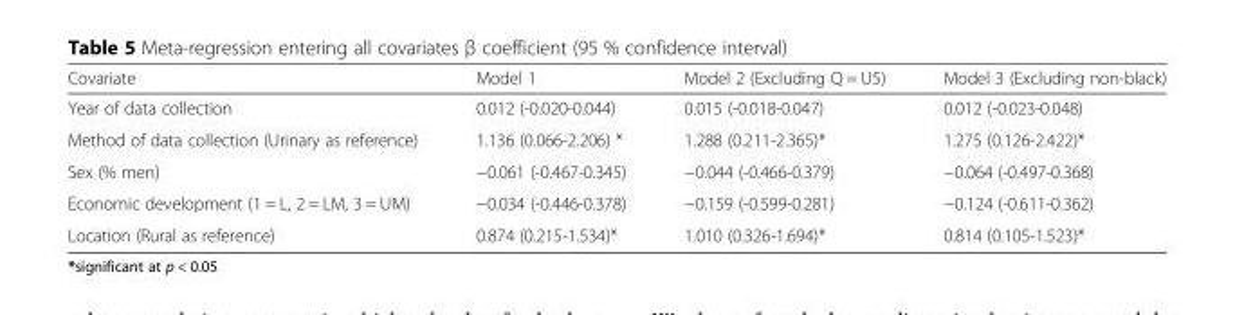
<table><thead><tr><td>Covariate</td><td>Model 1</td><td>Model 2 (Excluding Q = U5)</td><td>Model 3 (Excluding non-black)</td></tr></thead><tbody><tr><td>Year of data collection</td><td>0.012 (-0.020-0.044)</td><td>0.015 (-0.018-0.047)</td><td>0.012 (-0.023-0.048)</td></tr><tr><td>Method of data collection (Urinary as reference)</td><td>1.136 (0.066-2.206) *</td><td>1.288 (0.211-2.365)*</td><td>1.275 (0.126-2.422)*</td></tr><tr><td>Sex (% men)</td><td>−0.061 (-0.467-0.345)</td><td>−0.044 (-0.466-0.379)</td><td>−0.064 (-0.497-0.368)</td></tr><tr><td>Economic development (1 = L, 2 = LM, 3 = UM)</td><td>−0.034 (-0.446-0.378)</td><td>−0.159 (-0.599-0.281)</td><td>−0.124 (-0.611-0.362)</td></tr><tr><td>Location (Rural as reference)</td><td>0.874 (0.215-1.534)*</td><td>1.010 (0.326-1.694)*</td><td>0.814 (0.105-1.523)*</td></tr></tbody></table>